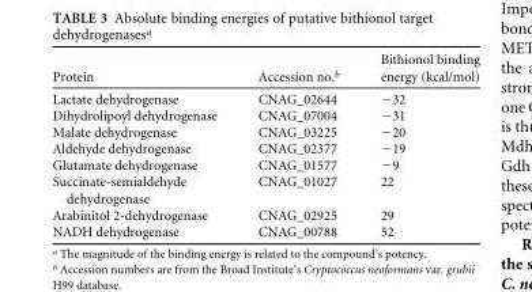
<table><thead><tr><td>Protein</td><td>Accession no.<sup>b</sup></td><td>Bithionol binding energy (kcal/mol)</td></tr></thead><tbody><tr><td>Lactate dehydrogenase</td><td>CNAG_02644</td><td>−32</td></tr><tr><td>Dihydrolipoyl dehydrogenase</td><td>CNAG_07004</td><td>−31</td></tr><tr><td>Malate dehydrogenase</td><td>CNAG_03225</td><td>−20</td></tr><tr><td>Aldehyde dehydrogenase</td><td>CNAG_02377</td><td>−19</td></tr><tr><td>Glutamate dehydrogenase</td><td>CNAG_01577</td><td>−9</td></tr><tr><td>Succinate-semialdehyde dehydrogenase</td><td>CNAG_01027</td><td>22</td></tr><tr><td>Arabinitol 2-dehydrogenase</td><td>CNAG_02925</td><td>29</td></tr><tr><td>NADH dehydrogenase</td><td>CNAG_00788</td><td>52</td></tr></tbody></table>